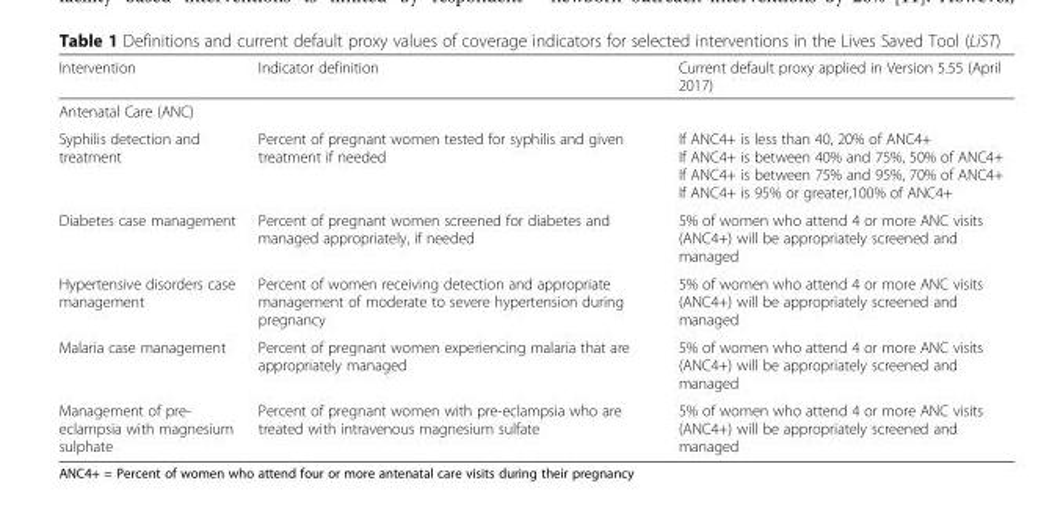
<table><thead><tr><td>Intervention</td><td>Indicator definition</td><td>Current default proxy applied in Version 5.55 (April 2017)</td></tr></thead><tbody><tr><td colspan="3">Antenatal Care (ANC)</td></tr><tr><td>Syphilis detection and treatment</td><td>Percent of pregnant women tested for syphilis and given treatment if needed</td><td>If ANC4+ is less than 40, 20% of ANC4+ If ANC4+ is between 40% and 75%, 50% of ANC4+ If ANC4+ is between 75% and 95%, 70% of ANC4+ If ANC4+ is 95% or greater,100% of ANC4+</td></tr><tr><td>Diabetes case management</td><td>Percent of pregnant women screened for diabetes and managed appropriately, if needed</td><td>5% of women who attend 4 or more ANC visits (ANC4+) will be appropriately screened and managed</td></tr><tr><td>Hypertensive disorders case management</td><td>Percent of women receiving detection and appropriate management of moderate to severe hypertension during pregnancy</td><td>5% of women who attend 4 or more ANC visits (ANC4+) will be appropriately screened and managed</td></tr><tr><td>Malaria case management</td><td>Percent of pregnant women experiencing malaria that are appropriately managed</td><td>5% of women who attend 4 or more ANC visits (ANC4+) will be appropriately screened and managed</td></tr><tr><td>Management of pre- eclampsia with magnesium sulphate</td><td>Percent of pregnant women with pre-eclampsia who are treated with intravenous magnesium sulfate</td><td>5% of women who attend 4 or more ANC visits (ANC4+) will be appropriately screened and managed</td></tr></tbody></table>